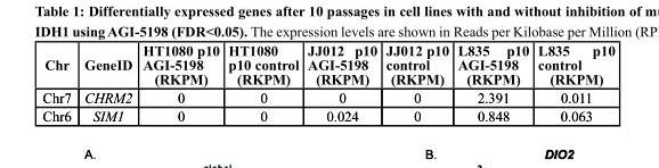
<table><thead><tr><td>chr</td><td>GeneId</td><td>HT1080 p10 AGI-5198 (RKPM)</td><td>HT1080 p10 control (RKPM)</td><td>JJ012 p10 AGI-5198 (RKPM)</td><td>JJ012 p10 control (RKPM)</td><td>L835 p10 AGI-5198 (RKPM)</td><td>L835 p10 control (RKPM)</td></tr></thead><tbody><tr><td>Chr7</td><td>CHRM2</td><td>0</td><td>0</td><td>0</td><td>0</td><td>2.391</td><td>0.011</td></tr><tr><td>Chr6</td><td>SIM1</td><td>0</td><td>0</td><td>0.024</td><td>0</td><td>0.848</td><td>0.063</td></tr></tbody></table>